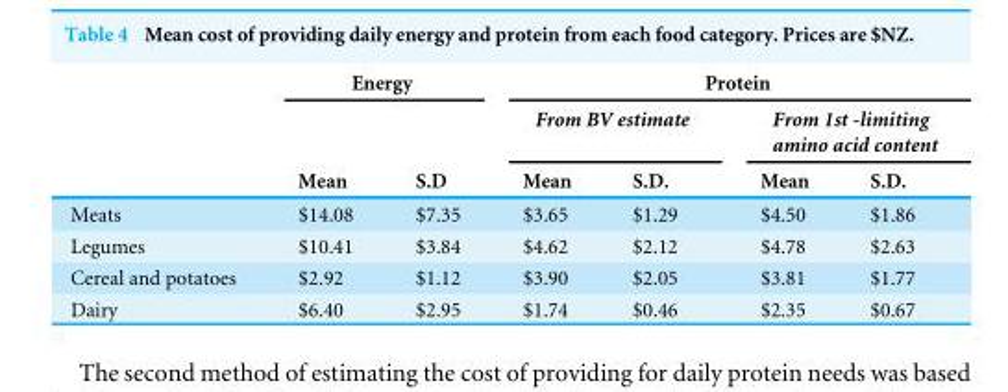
<table><thead><tr><td rowspan="3"></td><td colspan="2">Energy</td><td colspan="4">Protein</td></tr><tr><td rowspan="2">Mean</td><td rowspan="2">S.D</td><td colspan="2">From BV estimate</td><td colspan="2">From 1st -limiting amino acid content</td></tr><tr><td>Mean</td><td>S.D.</td><td>Mean</td><td>S.D.</td></tr></thead><tbody><tr><td>Meats</td><td>$14.08</td><td>$7.35</td><td>$3.65</td><td>$1.29</td><td>$4.50</td><td>$1.86</td></tr><tr><td>Legumes</td><td>$10.41</td><td>$3.84</td><td>$4.62</td><td>$2.12</td><td>$4.78</td><td>$2.63</td></tr><tr><td>Cereal and potatoes</td><td>$2.92</td><td>$1.12</td><td>$3.90</td><td>$2.05</td><td>$3.81</td><td>$1.77</td></tr><tr><td>Dairy</td><td>$6.40</td><td>$2.95</td><td>$1.74</td><td>$0.46</td><td>$2.35</td><td>$0.67</td></tr></tbody></table>